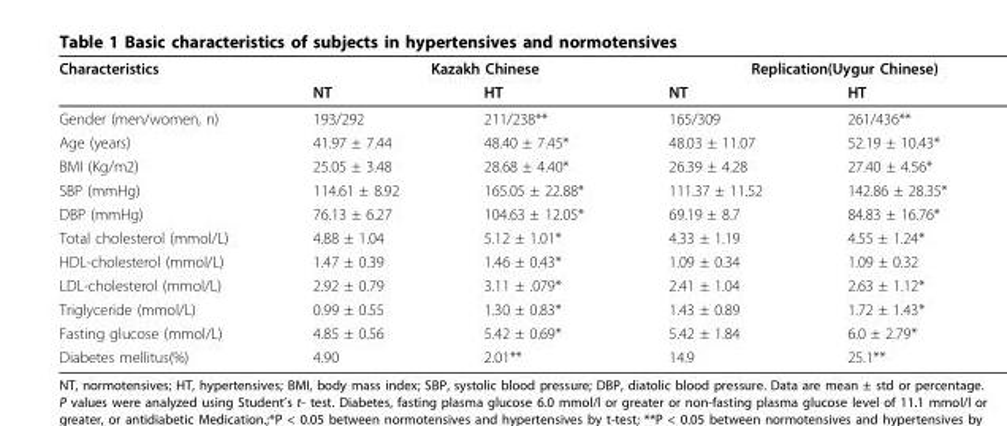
<table><thead><tr><td rowspan="2">Characteristics</td><td colspan="2">Kazakh Chinese</td><td colspan="2">Replication(Uygur Chinese)</td></tr><tr><td>NT</td><td>HT</td><td>NT</td><td>HT</td></tr></thead><tbody><tr><td>Gender (men/women, n)</td><td>193/292</td><td>211/238**</td><td>165/309</td><td>261/436**</td></tr><tr><td>Age (years)</td><td>41.97 ± 7.44</td><td>48.40 ± 7.45*</td><td>48.03 ± 11.07</td><td>52.19 ± 10.43*</td></tr><tr><td>BMI (Kg/m2)</td><td>25.05 ± 3.48</td><td>28.68 ± 4.40*</td><td>26.39 ± 4.28</td><td>27.40 ± 4.56*</td></tr><tr><td>SBP (mmHg)</td><td>114.61 ± 8.92</td><td>165.05 ± 22.88*</td><td>111.37 ± 11.52</td><td>142.86 ± 28.35*</td></tr><tr><td>DBP (mmHg)</td><td>76.13 ± 6.27</td><td>104.63 ± 12.05*</td><td>69.19 ± 8.7</td><td>84.83 ± 16.76*</td></tr><tr><td>Total cholesterol (mmol/L)</td><td>4.88 ± 1.04</td><td>5.12 ± 1.01*</td><td>4.33 ± 1.19</td><td>4.55 ± 1.24*</td></tr><tr><td>HDL-cholesterol (mmol/L)</td><td>1.47 ± 0.39</td><td>1.46 ± 0.43*</td><td>1.09 ± 0.34</td><td>1.09 ± 0.32</td></tr><tr><td>LDL-cholesterol (mmol/L)</td><td>2.92 ± 0.79</td><td>3.11 ± .079*</td><td>2.41 ± 1.04</td><td>2.63 ± 1.12*</td></tr><tr><td>Triglyceride (mmol/L)</td><td>0.99 ± 0.55</td><td>1.30 ± 0.83*</td><td>1.43 ± 0.89</td><td>1.72 ± 1.43*</td></tr><tr><td>Fasting glucose (mmol/L)</td><td>4.85 ± 0.56</td><td>5.42 ± 0.69*</td><td>5.42 ± 1.84</td><td>6.0 ± 2.79*</td></tr><tr><td>Diabetes mellitus(%)</td><td>4.90</td><td>2.01**</td><td>14.9</td><td>25.1**</td></tr></tbody></table>